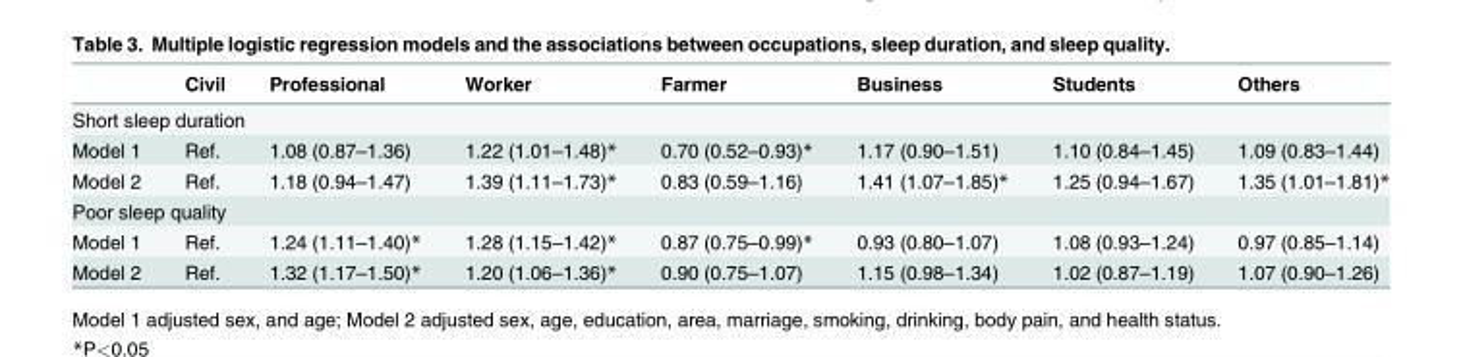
<table><thead><tr><td></td><td>Civil</td><td>Professional</td><td>Worker</td><td>Farmer</td><td>Business</td><td>Students</td><td>Others</td></tr></thead><tbody><tr><td colspan="8">Short sleep duration</td></tr><tr><td>Model 1</td><td>Ref.</td><td>1.08 (0.87–1.36)</td><td>1.22 (1.01–1.48)*</td><td>0.70 (0.52–0.93)*</td><td>1.17 (0.90–1.51)</td><td>1.10 (0.84–1.45)</td><td>1.09 (0.83–1.44)</td></tr><tr><td>Model 2</td><td>Ref.</td><td>1.18 (0.94–1.47)</td><td>1.39 (1.11–1.73)*</td><td>0.83 (0.59–1.16)</td><td>1.41 (1.07–1.85)*</td><td>1.25 (0.94–1.67)</td><td>1.35 (1.01–1.81)*</td></tr><tr><td colspan="8">Poor sleep quality</td></tr><tr><td>Model 1</td><td>Ref.</td><td>1.24 (1.11–1.40)*</td><td>1.28 (1.15–1.42)*</td><td>0.87 (0.75–0.99)*</td><td>0.93 (0.80–1.07)</td><td>1.08 (0.93–1.24)</td><td>0.97 (0.85–1.14)</td></tr><tr><td>Model 2</td><td>Ref.</td><td>1.32 (1.17–1.50)*</td><td>1.20 (1.06–1.36)*</td><td>0.90 (0.75–1.07)</td><td>1.15 (0.98–1.34)</td><td>1.02 (0.87–1.19)</td><td>1.07 (0.90–1.26)</td></tr></tbody></table>